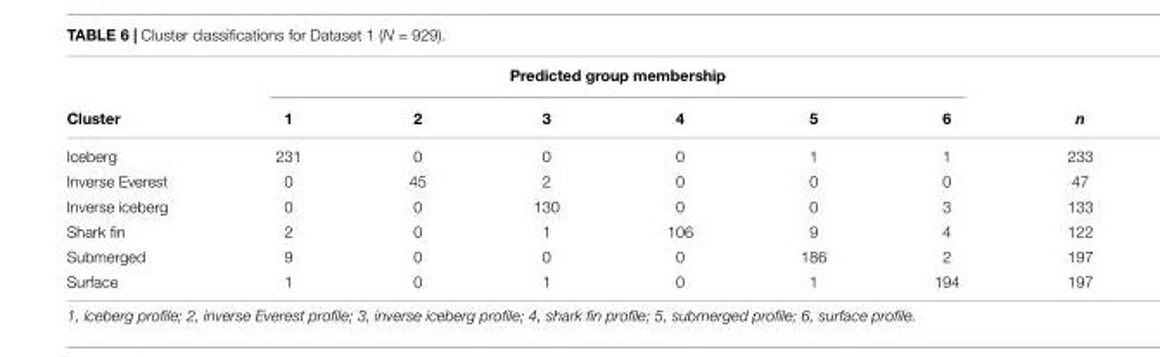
<table><thead><tr><td rowspan="2">Cluster</td><td colspan="6">Predicted group membership</td><td rowspan="2">n</td></tr><tr><td>1</td><td>2</td><td>3</td><td>4</td><td>5</td><td>6</td></tr></thead><tbody><tr><td>Iceberg</td><td>231</td><td>0</td><td>0</td><td>0</td><td>1</td><td>1</td><td>233</td></tr><tr><td>Inverse Everest</td><td>0</td><td>45</td><td>2</td><td>0</td><td>0</td><td>0</td><td>47</td></tr><tr><td>Inverse iceberg</td><td>0</td><td>0</td><td>130</td><td>0</td><td>0</td><td>3</td><td>133</td></tr><tr><td>Shark fin</td><td>2</td><td>0</td><td>1</td><td>106</td><td>9</td><td>4</td><td>122</td></tr><tr><td>Submerged</td><td>9</td><td>0</td><td>0</td><td>0</td><td>186</td><td>2</td><td>197</td></tr><tr><td>Surface</td><td>1</td><td>0</td><td>1</td><td>0</td><td>1</td><td>194</td><td>197</td></tr></tbody></table>